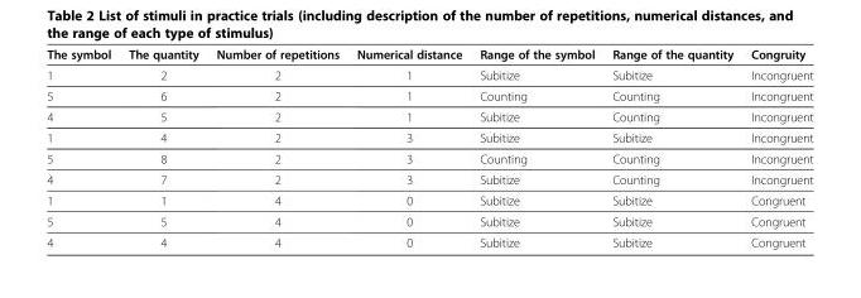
<table><thead><tr><td>The symbol</td><td>The quantity</td><td>Number of repetitions</td><td>Numerical distance</td><td>Range of the symbol</td><td>Range of the quantity</td><td>Congruity</td></tr></thead><tbody><tr><td>1</td><td>2</td><td>2</td><td>1</td><td>Subitize</td><td>Subitize</td><td>Incongruent</td></tr><tr><td>5</td><td>6</td><td>2</td><td>1</td><td>Counting</td><td>Counting</td><td>Incongruent</td></tr><tr><td>4</td><td>5</td><td>2</td><td>1</td><td>Subitize</td><td>Counting</td><td>Incongruent</td></tr><tr><td>1</td><td>4</td><td>2</td><td>3</td><td>Subitize</td><td>Subitize</td><td>Incongruent</td></tr><tr><td>5</td><td>8</td><td>2</td><td>3</td><td>Counting</td><td>Counting</td><td>Incongruent</td></tr><tr><td>4</td><td>7</td><td>2</td><td>3</td><td>Subitize</td><td>Counting</td><td>Incongruent</td></tr><tr><td>1</td><td>1</td><td>4</td><td>0</td><td>Subitize</td><td>Subitize</td><td>Congruent</td></tr><tr><td>5</td><td>5</td><td>4</td><td>0</td><td>Subitize</td><td>Subitize</td><td>Congruent</td></tr><tr><td>4</td><td>4</td><td>4</td><td>0</td><td>Subitize</td><td>Subitize</td><td>Congruent</td></tr></tbody></table>